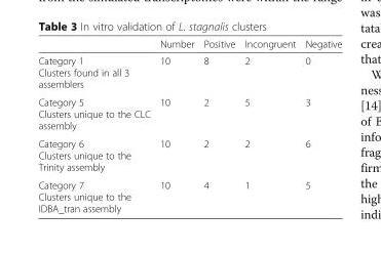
<table><thead><tr><td></td><td>Number</td><td>Positive</td><td>Incongruent</td><td>Negative</td></tr></thead><tbody><tr><td>Category 1 Clusters found in all 3 assemblers</td><td>10</td><td>8</td><td>2</td><td>0</td></tr><tr><td>Category 5 Clusters unique to the CLC assembly</td><td>10</td><td>2</td><td>5</td><td>3</td></tr><tr><td>Category 6 Clusters unique to the Trinity assembly</td><td>10</td><td>2</td><td>2</td><td>6</td></tr><tr><td>Category 7 Clusters unique to the IDBA_tran assembly</td><td>10</td><td>4</td><td>1</td><td>5</td></tr></tbody></table>